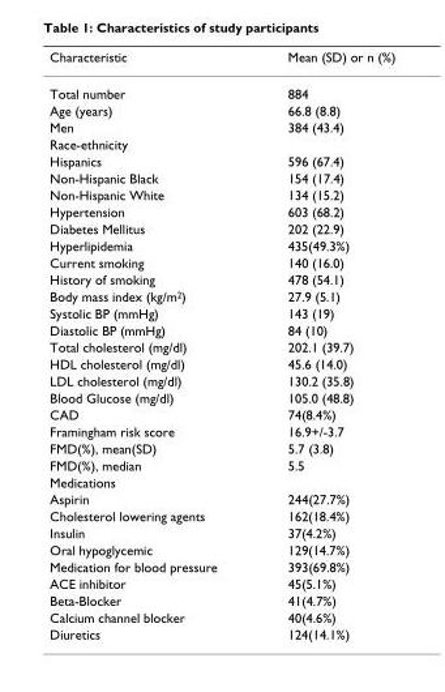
<table><thead><tr><td>Characteristic</td><td>Mean (SD) or n (%)</td></tr></thead><tbody><tr><td>Total number</td><td>884</td></tr><tr><td>Age (years)</td><td>66.8 (8.8)</td></tr><tr><td>Men</td><td>384 (43.4)</td></tr><tr><td colspan="2">Race-ethnicity</td></tr><tr><td>Hispanics</td><td>596 (67.4)</td></tr><tr><td>Non-Hispanic Black</td><td>154 (17.4)</td></tr><tr><td>Non-Hispanic White</td><td>134 (15.2)</td></tr><tr><td>Hypertension</td><td>603 (68.2)</td></tr><tr><td>Diabetes Mellitus</td><td>202 (22.9)</td></tr><tr><td>Hyperlipidemia</td><td>435(49.3%)</td></tr><tr><td>Current smoking</td><td>140 (16.0)</td></tr><tr><td>History of smoking</td><td>478 (54.1)</td></tr><tr><td>Body mass index (kg/m<sup>2</sup>)</td><td>27.9 (5.1)</td></tr><tr><td>Systolic BP (mmHg)</td><td>143 (19)</td></tr><tr><td>Diastolic BP (mmHg)</td><td>84 (10)</td></tr><tr><td>Total cholesterol (mg/dl)</td><td>202.1 (39.7)</td></tr><tr><td>HDL cholesterol (mg/dl)</td><td>45.6 (14.0)</td></tr><tr><td>LDL cholesterol (mg/dl)</td><td>130.2 (35.8)</td></tr><tr><td>Blood Glucose (mg/dl)</td><td>105.0 (48.8)</td></tr><tr><td>CAD</td><td>74(8.4%)</td></tr><tr><td>Framingham risk score</td><td>16.9+/-3.7</td></tr><tr><td>FMD(%), mean(SD)</td><td>5.7 (3.8)</td></tr><tr><td>FMD(%), median</td><td>5.5</td></tr><tr><td colspan="2">Medications</td></tr><tr><td>Aspirin</td><td>244(27.7%)</td></tr><tr><td>Cholesterol lowering agents</td><td>162(18.4%)</td></tr><tr><td>Insulin</td><td>37(4.2%)</td></tr><tr><td>Oral hypoglycemic</td><td>129(14.7%)</td></tr><tr><td>Medication for blood pressure</td><td>393(69.8%)</td></tr><tr><td>ACE inhibitor</td><td>45(5.1%)</td></tr><tr><td>Beta-Blocker</td><td>41(4.7%)</td></tr><tr><td>Calcium channel blocker</td><td>40(4.6%)</td></tr><tr><td>Diuretics</td><td>124(14.1%)</td></tr></tbody></table>